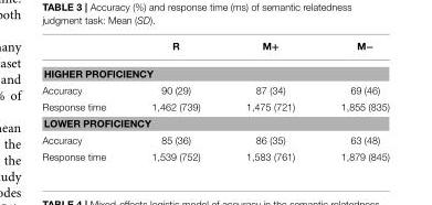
<table><thead><tr><td></td><td>R</td><td>M+</td><td>M−</td></tr></thead><tbody><tr><td colspan="4">HIGHER PROFICIENCY</td></tr><tr><td>Accuracy</td><td>90 (29)</td><td>87 (34)</td><td>69 (46)</td></tr><tr><td>Response time</td><td>1,462 (739)</td><td>1,475 (721)</td><td>1,855 (835)</td></tr><tr><td colspan="4">LOWER PROFICIENCY</td></tr><tr><td>Accuracy</td><td>85 (36)</td><td>86 (35)</td><td>63 (48)</td></tr><tr><td>Response time</td><td>1,539 (752)</td><td>1,583 (761)</td><td>1,879 (845)</td></tr></tbody></table>